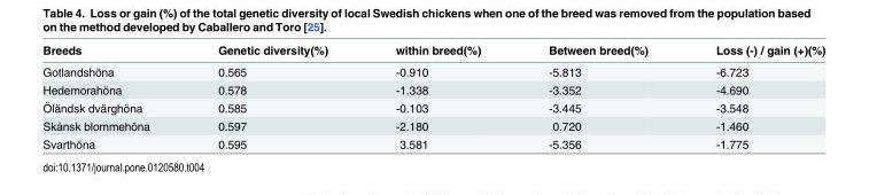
<table><thead><tr><td>Breeds</td><td>Genetic diversity(%)</td><td>within breed(%)</td><td>Between breed(%)</td><td>Loss (-) / gain (+)(%)</td></tr></thead><tbody><tr><td>Gotlandshöna</td><td>0.565</td><td>-0.910</td><td>-5.813</td><td>-6.723</td></tr><tr><td>Hedemorahöna</td><td>0.578</td><td>-1.338</td><td>-3.352</td><td>-4.690</td></tr><tr><td>Öländsk dvärghöna</td><td>0.585</td><td>-0.103</td><td>-3.445</td><td>-3.548</td></tr><tr><td>Skånsk blommehöna</td><td>0.597</td><td>-2.180</td><td>0.720</td><td>-1.460</td></tr><tr><td>Svarthöna</td><td>0.595</td><td>3.581</td><td>-5.356</td><td>-1.775</td></tr></tbody></table>